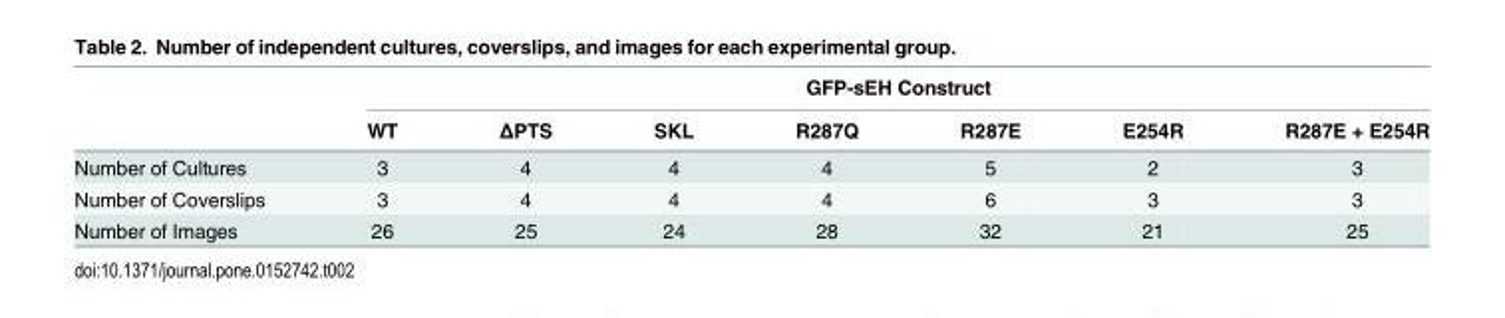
<table><thead><tr><td rowspan="2"></td><td colspan="7">GFP-sEH Construct</td></tr><tr><td>WT</td><td>ΔPTS</td><td>SKL</td><td>R287Q</td><td>R287E</td><td>E254R</td><td>R287E + E254R</td></tr></thead><tbody><tr><td>Number of Cultures</td><td>3</td><td>4</td><td>4</td><td>4</td><td>5</td><td>2</td><td>3</td></tr><tr><td>Number of Coverslips</td><td>3</td><td>4</td><td>4</td><td>4</td><td>6</td><td>3</td><td>3</td></tr><tr><td>Number of Images</td><td>26</td><td>25</td><td>24</td><td>28</td><td>32</td><td>21</td><td>25</td></tr></tbody></table>